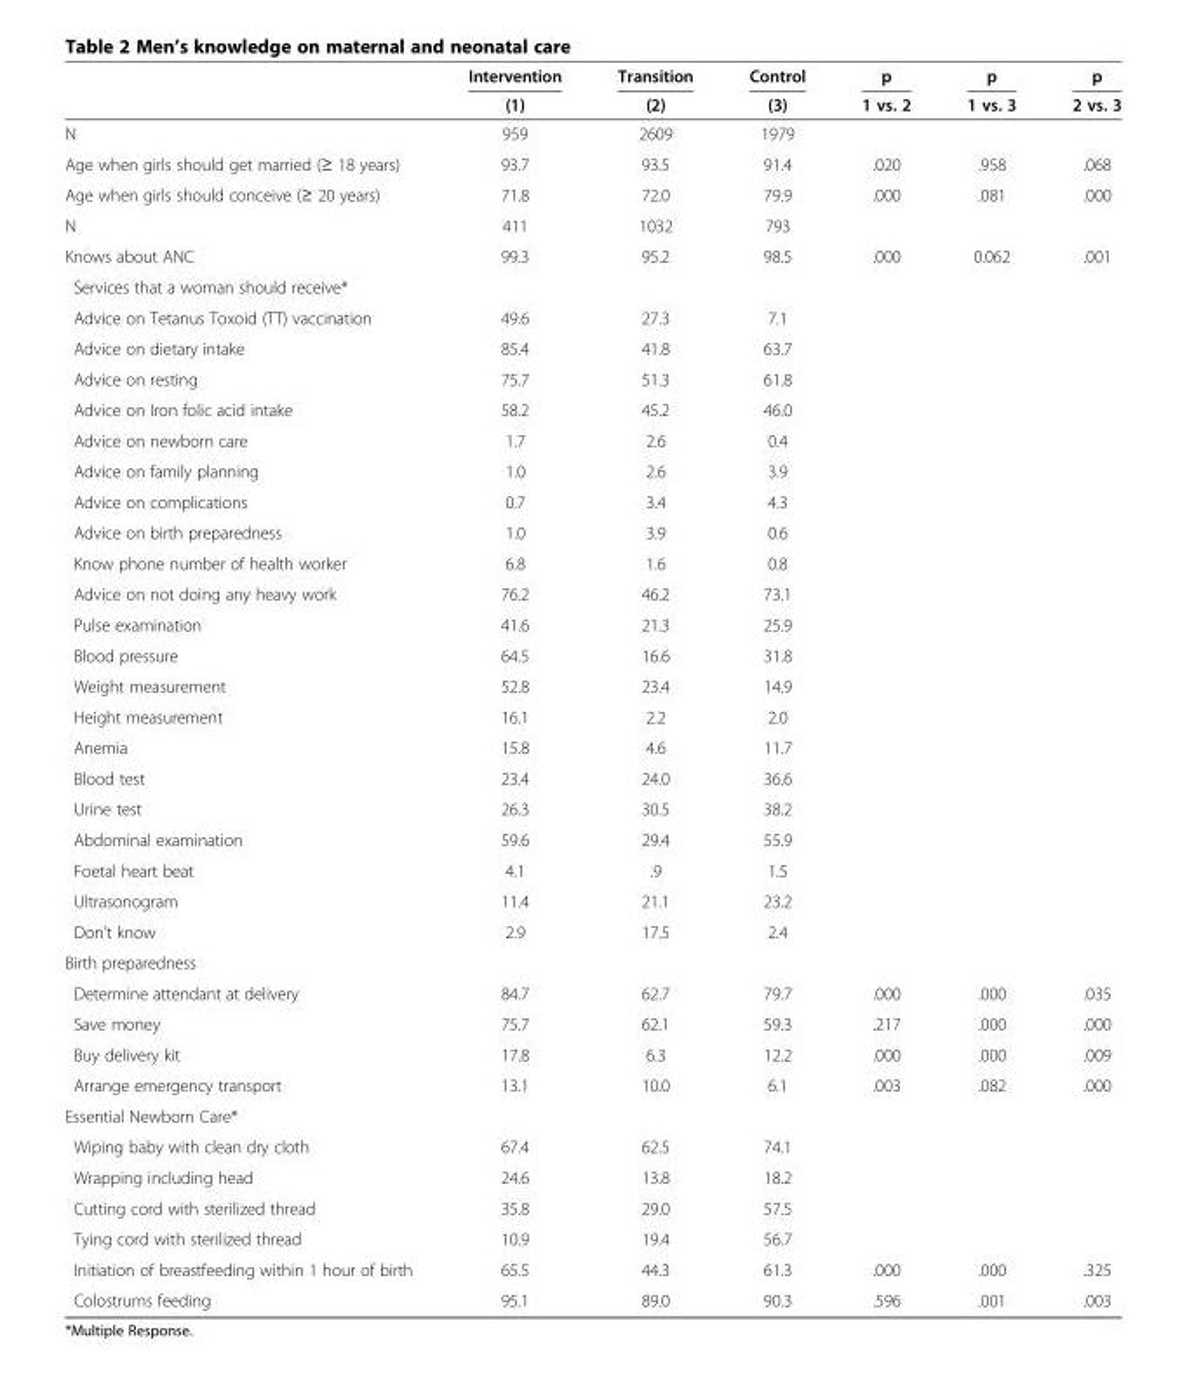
<table><thead><tr><td rowspan="2"></td><td rowspan="2">Intervention (1)</td><td rowspan="2">Transition (2)</td><td rowspan="2">Control (3)</td><td rowspan="2">p 1 vs. 2</td><td rowspan="2">p 1 vs. 3</td><td rowspan="2">p 2 vs. 3</td></tr><tr></tr></thead><tbody><tr><td>N</td><td>959</td><td>2609</td><td>1979</td><td></td><td></td><td></td></tr><tr><td>Age when girls should get married (≥ 18 years)</td><td>93.7</td><td>93.5</td><td>91.4</td><td>.020</td><td>.958</td><td>.068</td></tr><tr><td>Age when girls should conceive (≥ 20 years)</td><td>71.8</td><td>72.0</td><td>79.9</td><td>.000</td><td>.081</td><td>.000</td></tr><tr><td>N</td><td>411</td><td>1032</td><td>793</td><td></td><td></td><td></td></tr><tr><td>Knows about ANC</td><td>99.3</td><td>95.2</td><td>98.5</td><td>.000</td><td>0.062</td><td>.001</td></tr><tr><td colspan="7">Services that a woman should receive*</td></tr><tr><td>Advice on Tetanus Toxoid (TT) vaccination</td><td>49.6</td><td>27.3</td><td>7.1</td><td></td><td></td><td></td></tr><tr><td>Advice on dietary intake</td><td>85.4</td><td>41.8</td><td>63.7</td><td></td><td></td><td></td></tr><tr><td>Advice on resting</td><td>75.7</td><td>51.3</td><td>61.8</td><td></td><td></td><td></td></tr><tr><td>Advice on Iron folic acid intake</td><td>58.2</td><td>45.2</td><td>46.0</td><td></td><td></td><td></td></tr><tr><td>Advice on newborn care</td><td>1.7</td><td>2.6</td><td>0.4</td><td></td><td></td><td></td></tr><tr><td>Advice on family planning</td><td>1.0</td><td>2.6</td><td>3.9</td><td></td><td></td><td></td></tr><tr><td>Advice on complications</td><td>0.7</td><td>3.4</td><td>4.3</td><td></td><td></td><td></td></tr><tr><td>Advice on birth preparedness</td><td>1.0</td><td>3.9</td><td>0.6</td><td></td><td></td><td></td></tr><tr><td>Know phone number of health worker</td><td>6.8</td><td>1.6</td><td>0.8</td><td></td><td></td><td></td></tr><tr><td>Advice on not doing any heavy work</td><td>76.2</td><td>46.2</td><td>73.1</td><td></td><td></td><td></td></tr><tr><td>Pulse examination</td><td>41.6</td><td>21.3</td><td>25.9</td><td></td><td></td><td></td></tr><tr><td>Blood pressure</td><td>64.5</td><td>16.6</td><td>31.8</td><td></td><td></td><td></td></tr><tr><td>Weight measurement</td><td>52.8</td><td>23.4</td><td>14.9</td><td></td><td></td><td></td></tr><tr><td>Height measurement</td><td>16.1</td><td>2.2</td><td>2.0</td><td></td><td></td><td></td></tr><tr><td>Anemia</td><td>15.8</td><td>4.6</td><td>11.7</td><td></td><td></td><td></td></tr><tr><td>Blood test</td><td>23.4</td><td>24.0</td><td>36.6</td><td></td><td></td><td></td></tr><tr><td>Urine test</td><td>26.3</td><td>30.5</td><td>38.2</td><td></td><td></td><td></td></tr><tr><td>Abdominal examination</td><td>59.6</td><td>29.4</td><td>55.9</td><td></td><td></td><td></td></tr><tr><td>Foetal heart beat</td><td>4.1</td><td>.9</td><td>1.5</td><td></td><td></td><td></td></tr><tr><td>Ultrasonogram</td><td>11.4</td><td>21.1</td><td>23.2</td><td></td><td></td><td></td></tr><tr><td>Don’t know</td><td>2.9</td><td>17.5</td><td>2.4</td><td></td><td></td><td></td></tr><tr><td colspan="7">Birth preparedness</td></tr><tr><td>Determine attendant at delivery</td><td>84.7</td><td>62.7</td><td>79.7</td><td>.000</td><td>.000</td><td>.035</td></tr><tr><td>Save money</td><td>75.7</td><td>62.1</td><td>59.3</td><td>.217</td><td>.000</td><td>.000</td></tr><tr><td>Buy delivery kit</td><td>17.8</td><td>6.3</td><td>12.2</td><td>.000</td><td>.000</td><td>.009</td></tr><tr><td>Arrange emergency transport</td><td>13.1</td><td>10.0</td><td>6.1</td><td>.003</td><td>.082</td><td>.000</td></tr><tr><td colspan="7">Essential Newborn Care*</td></tr><tr><td>Wiping baby with clean dry cloth</td><td>67.4</td><td>62.5</td><td>74.1</td><td></td><td></td><td></td></tr><tr><td>Wrapping including head</td><td>24.6</td><td>13.8</td><td>18.2</td><td></td><td></td><td></td></tr><tr><td>Cutting cord with sterilized thread</td><td>35.8</td><td>29.0</td><td>57.5</td><td></td><td></td><td></td></tr><tr><td>Tying cord with sterilized thread</td><td>10.9</td><td>19.4</td><td>56.7</td><td></td><td></td><td></td></tr><tr><td>Initiation of breastfeeding within 1 hour of birth</td><td>65.5</td><td>44.3</td><td>61.3</td><td>.000</td><td>.000</td><td>.325</td></tr><tr><td>Colostrums feeding</td><td>95.1</td><td>89.0</td><td>90.3</td><td>.596</td><td>.001</td><td>.003</td></tr></tbody></table>